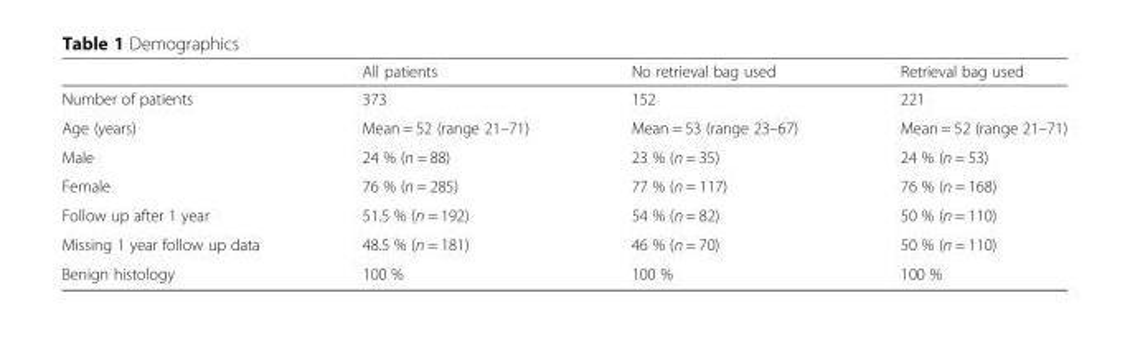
<table><thead><tr><td></td><td>All patients</td><td>No retrieval bag used</td><td>Retrieval bag used</td></tr></thead><tbody><tr><td>Number of patients</td><td>373</td><td>152</td><td>221</td></tr><tr><td>Age (years)</td><td>Mean = 52 (range 21–71)</td><td>Mean = 53 (range 23–67)</td><td>Mean = 52 (range 21–71)</td></tr><tr><td>Male</td><td>24 % (n = 88)</td><td>23 % (n = 35)</td><td>24 % (n = 53)</td></tr><tr><td>Female</td><td>76 % (n = 285)</td><td>77 % (n = 117)</td><td>76 % (n = 168)</td></tr><tr><td>Follow up after 1 year</td><td>51.5 % (n = 192)</td><td>54 % (n = 82)</td><td>50 % (n = 110)</td></tr><tr><td>Missing 1 year follow up data</td><td>48.5 % (n = 181)</td><td>46 % (n = 70)</td><td>50 % (n = 110)</td></tr><tr><td>Benign histology</td><td>100 %</td><td>100 %</td><td>100 %</td></tr></tbody></table>